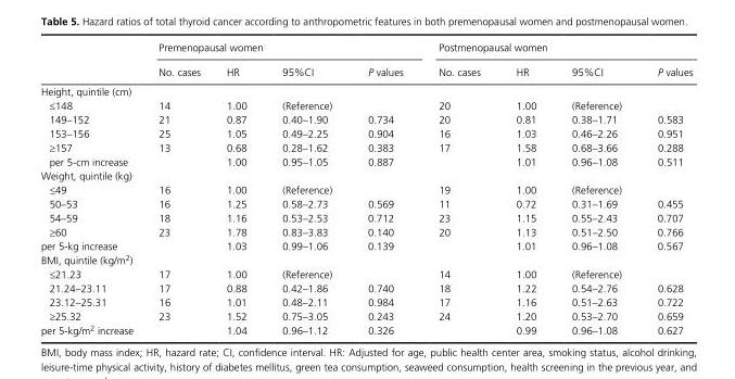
<table><thead><tr><td rowspan="2"></td><td colspan="4">Premenopausal women</td><td colspan="4">Postmenopausal women</td></tr><tr><td>No. cases</td><td>HR</td><td>95%CI</td><td>P values</td><td>No. cases</td><td>HR</td><td>95%CI</td><td>P values</td></tr></thead><tbody><tr><td colspan="9">Height, quintile (cm)</td></tr><tr><td>≤148</td><td>14</td><td>1.00</td><td>(Reference)</td><td></td><td>20</td><td>1.00</td><td>(Reference)</td><td></td></tr><tr><td>149–152</td><td>21</td><td>0.87</td><td>0.40–1.90</td><td>0.734</td><td>20</td><td>0.81</td><td>0.38–1.71</td><td>0.583</td></tr><tr><td>153–156</td><td>25</td><td>1.05</td><td>0.49–2.25</td><td>0.904</td><td>16</td><td>1.03</td><td>0.46–2.26</td><td>0.951</td></tr><tr><td>≥157</td><td>13</td><td>0.68</td><td>0.28–1.62</td><td>0.383</td><td>17</td><td>1.58</td><td>0.68–3.66</td><td>0.288</td></tr><tr><td>per 5- cm increase</td><td></td><td>1.00</td><td>0.95–1.05</td><td>0.887</td><td></td><td>1.01</td><td>0.96–1.08</td><td>0.511</td></tr><tr><td colspan="9">Weight, quintile (kg)</td></tr><tr><td>≤49</td><td>16</td><td>1.00</td><td>(Reference)</td><td></td><td>19</td><td>1.00</td><td>(Reference)</td><td></td></tr><tr><td>50–53</td><td>16</td><td>1.25</td><td>0.58–2.73</td><td>0.569</td><td>11</td><td>0.72</td><td>0.31–1.69</td><td>0.455</td></tr><tr><td>54–59</td><td>18</td><td>1.16</td><td>0.53–2.53</td><td>0.712</td><td>23</td><td>1.15</td><td>0.55–2.43</td><td>0.707</td></tr><tr><td>≥60</td><td>23</td><td>1.78</td><td>0.83–3.83</td><td>0.140</td><td>20</td><td>1.13</td><td>0.51–2.50</td><td>0.766</td></tr><tr><td>per 5- kg increase</td><td></td><td>1.03</td><td>0.99–1.06</td><td>0.139</td><td></td><td>1.01</td><td>0.96–1.08</td><td>0.567</td></tr><tr><td colspan="9">BMI, quintile (kg/m<sup>2</sup>)</td></tr><tr><td>≤21.23</td><td>17</td><td>1.00</td><td>(Reference)</td><td></td><td>14</td><td>1.00</td><td>(Reference)</td><td></td></tr><tr><td>21.24–23.11</td><td>17</td><td>0.88</td><td>0.42–1.86</td><td>0.740</td><td>18</td><td>1.22</td><td>0.54–2.76</td><td>0.628</td></tr><tr><td>23.12–25.31</td><td>16</td><td>1.01</td><td>0.48–2.11</td><td>0.984</td><td>17</td><td>1.16</td><td>0.51–2.63</td><td>0.722</td></tr><tr><td>≥25.32</td><td>23</td><td>1.52</td><td>0.75–3.05</td><td>0.243</td><td>24</td><td>1.20</td><td>0.53–2.70</td><td>0.659</td></tr><tr><td>per 5- kg/m<sup>2</sup> increase</td><td></td><td>1.04</td><td>0.96–1.12</td><td>0.326</td><td></td><td>0.99</td><td>0.96–1.08</td><td>0.627</td></tr></tbody></table>